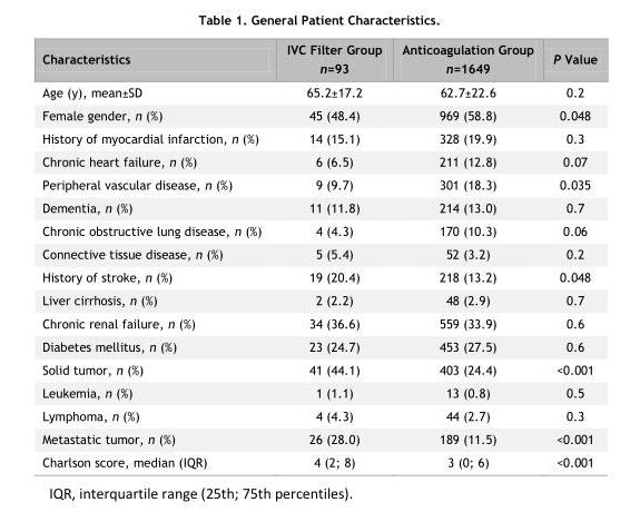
<table><thead><tr><td>Characteristics</td><td>IVC Filter Group n=93</td><td>Anticoagulation Group n=1649</td><td>P Value</td></tr></thead><tbody><tr><td>Age (y), mean±SD</td><td>65.2±17.2</td><td>62.7±22.6</td><td>0.2</td></tr><tr><td>Female gender, n (%)</td><td>45 (48.4)</td><td>969 (58.8)</td><td>0.048</td></tr><tr><td>History of myocardial infarction, n (%)</td><td>14 (15.1)</td><td>328 (19.9)</td><td>0.3</td></tr><tr><td>Chronic heart failure, n (%)</td><td>6 (6.5)</td><td>211 (12.8)</td><td>0.07</td></tr><tr><td>Peripheral vascular disease, n (%)</td><td>9 (9.7)</td><td>301 (18.3)</td><td>0.035</td></tr><tr><td>Dementia, n (%)</td><td>11 (11.8)</td><td>214 (13.0)</td><td>0.7</td></tr><tr><td>Chronic obstructive lung disease, n (%)</td><td>4 (4.3)</td><td>170 (10.3)</td><td>0.06</td></tr><tr><td>Connective tissue disease, n (%)</td><td>5 (5.4)</td><td>52 (3.2)</td><td>0.2</td></tr><tr><td>History of stroke, n (%)</td><td>19 (20.4)</td><td>218 (13.2)</td><td>0.048</td></tr><tr><td>Liver cirrhosis, n (%)</td><td>2 (2.2)</td><td>48 (2.9)</td><td>0.7</td></tr><tr><td>Chronic renal failure, n (%)</td><td>34 (36.6)</td><td>559 (33.9)</td><td>0.6</td></tr><tr><td>Diabetes mellitus, n (%)</td><td>23 (24.7)</td><td>453 (27.5)</td><td>0.6</td></tr><tr><td>Solid tumor, n (%)</td><td>41 (44.1)</td><td>403 (24.4)</td><td>&lt;0.001</td></tr><tr><td>Leukemia, n (%)</td><td>1 (1.1)</td><td>13 (0.8)</td><td>0.5</td></tr><tr><td>Lymphoma, n (%)</td><td>4 (4.3)</td><td>44 (2.7)</td><td>0.3</td></tr><tr><td>Metastatic tumor, n (%)</td><td>26 (28.0)</td><td>189 (11.5)</td><td>&lt;0.001</td></tr><tr><td>Charlson score, median (IQR)</td><td>4 (2; 8)</td><td>3 (0; 6)</td><td>&lt;0.001</td></tr></tbody></table>